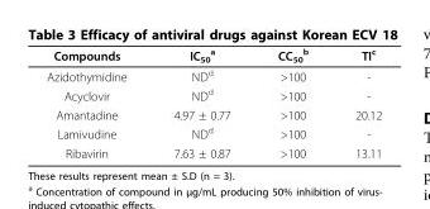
<table><thead><tr><td>Compounds</td><td>IC<sub>50</sub> <sup>a</sup></td><td>CC<sub>50</sub> <sup>b</sup></td><td>TI<sup>c</sup></td></tr></thead><tbody><tr><td>Azidothymidine</td><td>ND<sup>d</sup></td><td>&gt;100</td><td>-</td></tr><tr><td>Acyclovir</td><td>ND<sup>d</sup></td><td>&gt;100</td><td>-</td></tr><tr><td>Amantadine</td><td>4.97 ± 0.77</td><td>&gt;100</td><td>20.12</td></tr><tr><td>Lamivudine</td><td>ND<sup>d</sup></td><td>&gt;100</td><td>-</td></tr><tr><td>Ribavirin</td><td>7.63 ± 0.87</td><td>&gt;100</td><td>13.11</td></tr></tbody></table>